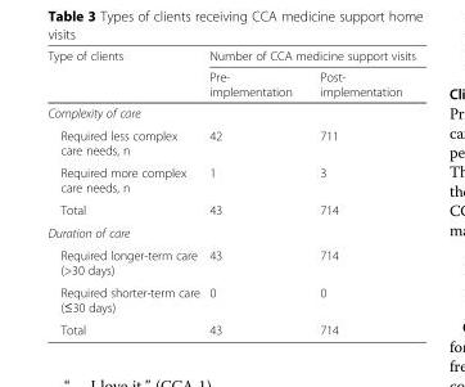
<table><thead><tr><td rowspan="2">Type of clients</td><td colspan="2">Number of CCA medicine support visits</td></tr><tr><td>Pre- implementation</td><td>Post- implementation</td></tr></thead><tbody><tr><td colspan="3">Complexity of care</td></tr><tr><td>Required less complex care needs, n</td><td>42</td><td>711</td></tr><tr><td>Required more complex care needs, n</td><td>1</td><td>3</td></tr><tr><td>Total</td><td>43</td><td>714</td></tr><tr><td colspan="3">Duration of care</td></tr><tr><td>Required longer-term care (&gt;30 days)</td><td>43</td><td>714</td></tr><tr><td>Required shorter-term care (≤30 days)</td><td>0</td><td>0</td></tr><tr><td>Total</td><td>43</td><td>714</td></tr></tbody></table>